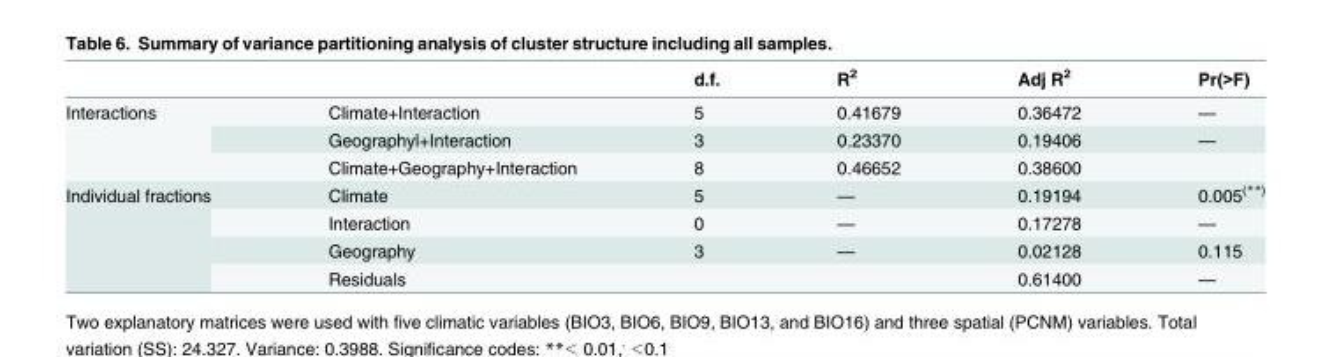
<table><thead><tr><td></td><td></td><td>d.f.</td><td>R<sup>2</sup></td><td>Adj R<sup>2</sup></td><td>Pr(&gt;F)</td></tr></thead><tbody><tr><td rowspan="3">Interactions</td><td>Climate+Interaction</td><td>5</td><td>0.41679</td><td>0.36472</td><td>—</td></tr><tr><td>Geographyl+Interaction</td><td>3</td><td>0.23370</td><td>0.19406</td><td>—</td></tr><tr><td>Climate+Geography+Interaction</td><td>8</td><td>0.46652</td><td>0.38600</td><td></td></tr><tr><td rowspan="4">Individual fractions</td><td>Climate</td><td>5</td><td>—</td><td>0.19194</td><td>0.005<sup>(**)</sup></td></tr><tr><td>Interaction</td><td>0</td><td>—</td><td>0.17278</td><td>—</td></tr><tr><td>Geography</td><td>3</td><td>—</td><td>0.02128</td><td>0.115</td></tr><tr><td>Residuals</td><td></td><td></td><td>0.61400</td><td>—</td></tr></tbody></table>